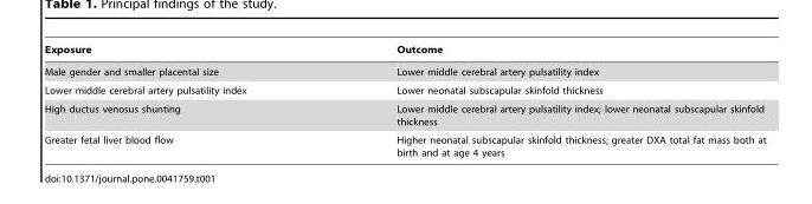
<table><thead><tr><td>Exposure</td><td>Outcome</td></tr></thead><tbody><tr><td>Male gender and smaller placental size</td><td>Lower middle cerebral artery pulsatility index</td></tr><tr><td>Lower middle cerebral artery pulsatility index</td><td>Lower neonatal subscapular skinfold thickness</td></tr><tr><td>High ductus venosus shunting</td><td>Lower middle cerebral artery pulsatility index; lower neonatal subscapular skinfold thickness</td></tr><tr><td>Greater fetal liver blood flow</td><td>Higher neonatal subscapular skinfold thickness; greater DXA total fat mass both at birth and at age 4 years</td></tr></tbody></table>